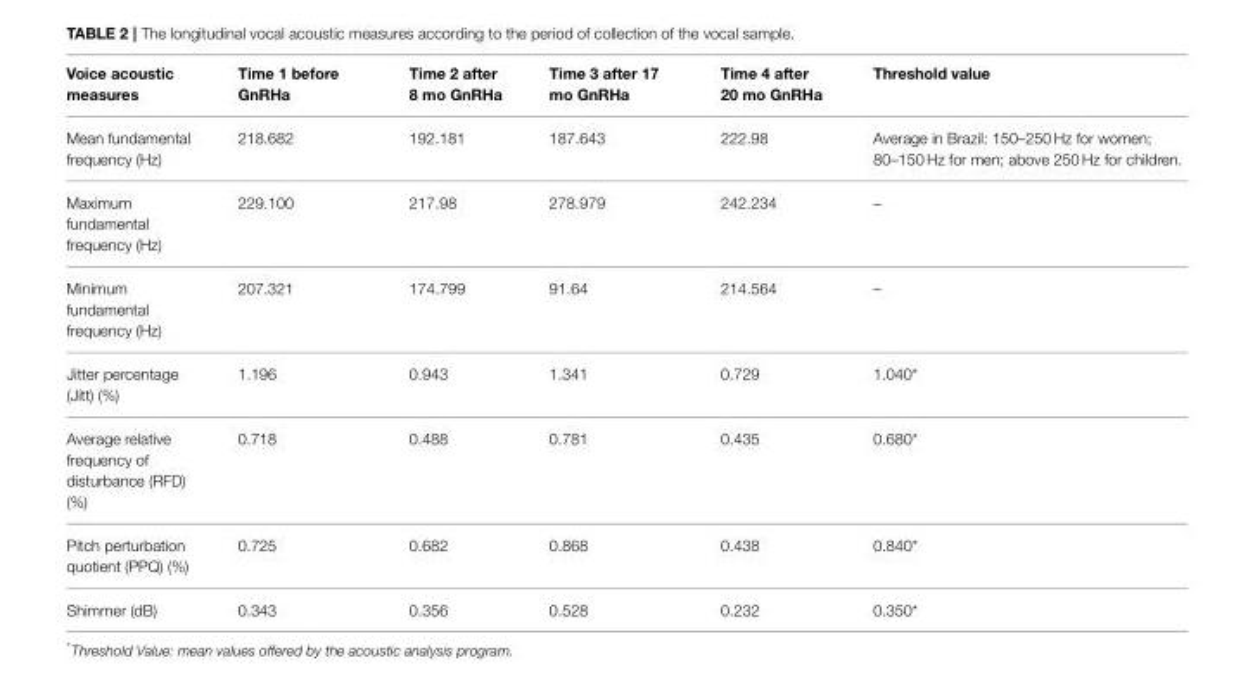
<table><thead><tr><td>Voice acoustic measures</td><td>Time 1 before GnRHa</td><td>Time 2 after 8 mo GnRHa</td><td>Time 3 after 17 mo GnRHa</td><td>Time 4 after 20 mo GnRHa</td><td>Threshold value</td></tr></thead><tbody><tr><td>Mean fundamental frequency (Hz)</td><td>218.682</td><td>192.181</td><td>187.643</td><td>222.98</td><td>Average in Brazil: 150–250 Hz for women; 80–150 Hz for men; above 250 Hz for children.</td></tr><tr><td>Maximum fundamental frequency (Hz)</td><td>229.100</td><td>217.98</td><td>278.979</td><td>242.234</td><td>–</td></tr><tr><td>Minimum fundamental frequency (Hz)</td><td>207.321</td><td>174.799</td><td>91.64</td><td>214.564</td><td>–</td></tr><tr><td>Jitter percentage (Jitt) (%)</td><td>1.196</td><td>0.943</td><td>1.341</td><td>0.729</td><td>1.040*</td></tr><tr><td>Average relative frequency of disturbance (RFD) (%)</td><td>0.718</td><td>0.488</td><td>0.781</td><td>0.435</td><td>0.680*</td></tr><tr><td>Pitch perturbation quotient (PPQ) (%)</td><td>0.725</td><td>0.682</td><td>0.868</td><td>0.438</td><td>0.840*</td></tr><tr><td>Shimmer (dB)</td><td>0.343</td><td>0.356</td><td>0.528</td><td>0.232</td><td>0.350*</td></tr></tbody></table>